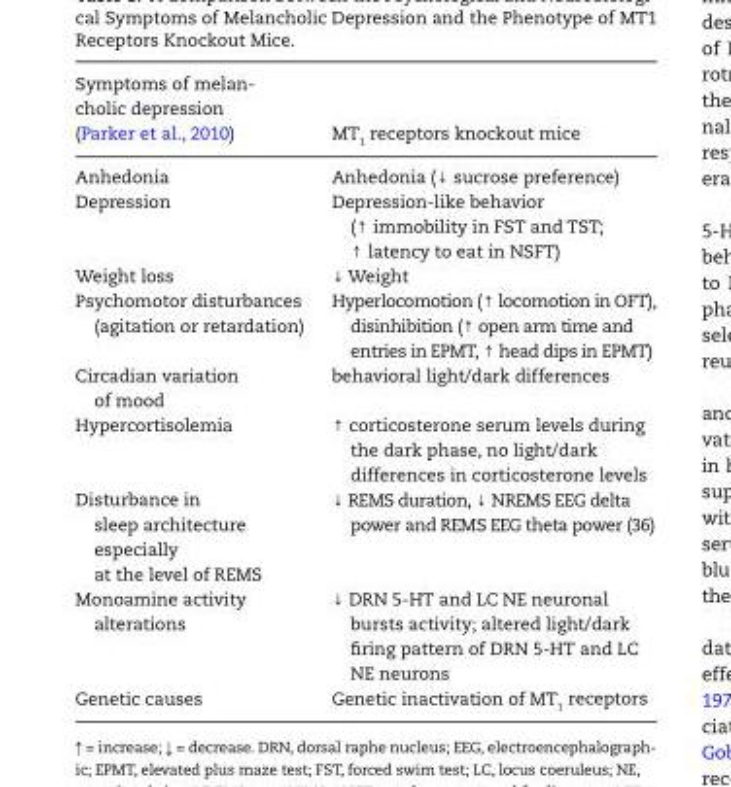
<table><thead><tr><td>Symptoms of melan- cholic depression (Parker et al., 2010)</td><td>MT<sub>1</sub> receptors knockout mice</td></tr></thead><tbody><tr><td>Anhedonia</td><td>Anhedonia (↓ sucrose preference)</td></tr><tr><td>Depression</td><td>Depression-like behavior (↑ immobility in FST and TST; ↑ latency to eat in NSFT)</td></tr><tr><td>Weight loss</td><td>↓ Weight</td></tr><tr><td>Psychomotor disturbances (agitation or retardation)</td><td>Hyperlocomotion (↑ locomotion in OFT), disinhibition (↑ open arm time and entries in EPMT, ↑ head dips in EPMT)</td></tr><tr><td>Circadian variation of mood</td><td>behavioral light/dark differences</td></tr><tr><td>Hypercortisolemia</td><td>↑ corticosterone serum levels during the dark phase, no light/dark differences in corticosterone levels</td></tr><tr><td>Disturbance in sleep architecture especially at the level of REMS</td><td>↓ REMS duration, ↓ NREMS EEG delta power and REMS EEG theta power (36)</td></tr><tr><td>Monoamine activity alterations</td><td>↓ DRN 5-HT and LC NE neuronal bursts activity; altered light/dark firing pattern of DRN 5-HT and LC NE neurons</td></tr><tr><td>Genetic causes</td><td>Genetic inactivation of MT<sub>1</sub> receptors</td></tr></tbody></table>